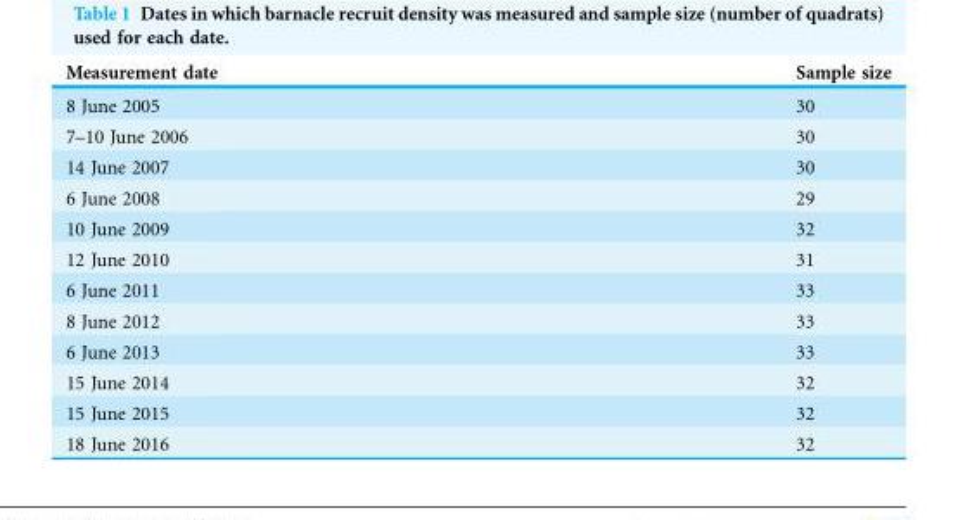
<table><thead><tr><td>Measurement date</td><td>Sample size</td></tr></thead><tbody><tr><td>8 June 2005</td><td>30</td></tr><tr><td>7–10 June 2006</td><td>30</td></tr><tr><td>14 June 2007</td><td>30</td></tr><tr><td>6 June 2008</td><td>29</td></tr><tr><td>10 June 2009</td><td>32</td></tr><tr><td>12 June 2010</td><td>31</td></tr><tr><td>6 June 2011</td><td>33</td></tr><tr><td>8 June 2012</td><td>33</td></tr><tr><td>6 June 2013</td><td>33</td></tr><tr><td>15 June 2014</td><td>32</td></tr><tr><td>15 June 2015</td><td>32</td></tr><tr><td>18 June 2016</td><td>32</td></tr></tbody></table>